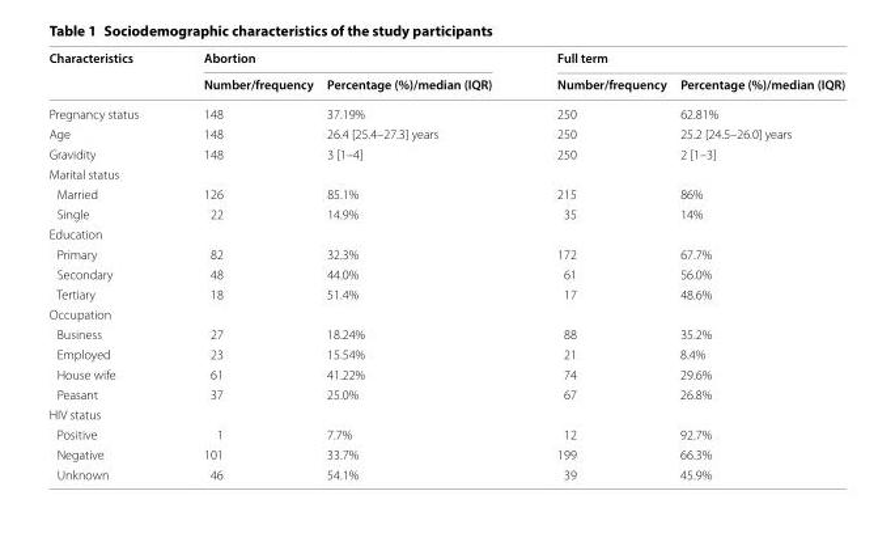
<table><thead><tr><td rowspan="2">Characteristics</td><td colspan="2">Abortion</td><td colspan="2">Full term</td></tr><tr><td>Number/frequency</td><td>Percentage (%)/median (IQR)</td><td>Number/frequency</td><td>Percentage (%)/median (IQR)</td></tr></thead><tbody><tr><td>Pregnancy status</td><td>148</td><td>37.19%</td><td>250</td><td>62.81%</td></tr><tr><td>Age</td><td>148</td><td>26.4 [25.4–27.3] years</td><td>250</td><td>25.2 [24.5–26.0] years</td></tr><tr><td>Gravidity</td><td>148</td><td>3 [1–4]</td><td>250</td><td>2 [1–3]</td></tr><tr><td colspan="5">Marital status</td></tr><tr><td>Married</td><td>126</td><td>85.1%</td><td>215</td><td>86%</td></tr><tr><td>Single</td><td>22</td><td>14.9%</td><td>35</td><td>14%</td></tr><tr><td colspan="5">Education</td></tr><tr><td>Primary</td><td>82</td><td>32.3%</td><td>172</td><td>67.7%</td></tr><tr><td>Secondary</td><td>48</td><td>44.0%</td><td>61</td><td>56.0%</td></tr><tr><td>Tertiary</td><td>18</td><td>51.4%</td><td>17</td><td>48.6%</td></tr><tr><td colspan="5">Occupation</td></tr><tr><td>Business</td><td>27</td><td>18.24%</td><td>88</td><td>35.2%</td></tr><tr><td>Employed</td><td>23</td><td>15.54%</td><td>21</td><td>8.4%</td></tr><tr><td>House wife</td><td>61</td><td>41.22%</td><td>74</td><td>29.6%</td></tr><tr><td>Peasant</td><td>37</td><td>25.0%</td><td>67</td><td>26.8%</td></tr><tr><td colspan="5">HIV status</td></tr><tr><td>Positive</td><td>1</td><td>7.7%</td><td>12</td><td>92.7%</td></tr><tr><td>Negative</td><td>101</td><td>33.7%</td><td>199</td><td>66.3%</td></tr><tr><td>Unknown</td><td>46</td><td>54.1%</td><td>39</td><td>45.9%</td></tr></tbody></table>